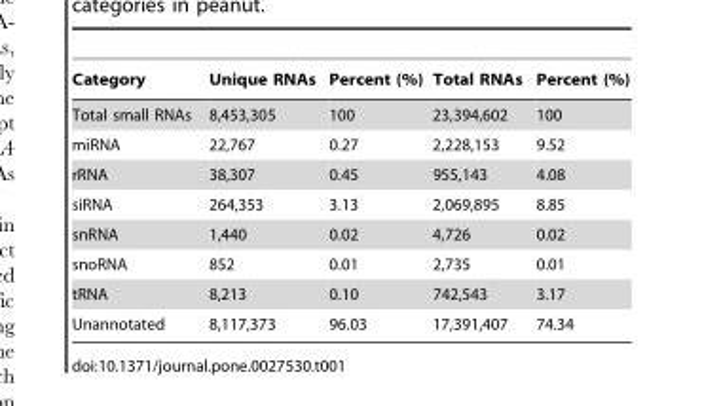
<table><thead><tr><td>Category</td><td>Unique RNAs</td><td>Percent (%)</td><td>Total RNAs</td><td>Percent (%)</td></tr></thead><tbody><tr><td>Total small RNAs</td><td>8,453,305</td><td>100</td><td>23,394,602</td><td>100</td></tr><tr><td>miRNA</td><td>22,767</td><td>0.27</td><td>2,228,153</td><td>9.52</td></tr><tr><td>rRNA</td><td>38,307</td><td>0.45</td><td>955,143</td><td>4.08</td></tr><tr><td>siRNA</td><td>264,353</td><td>3.13</td><td>2,069,895</td><td>8.85</td></tr><tr><td>snRNA</td><td>1,440</td><td>0.02</td><td>4,726</td><td>0.02</td></tr><tr><td>snoRNA</td><td>852</td><td>0.01</td><td>2,735</td><td>0.01</td></tr><tr><td>tRNA</td><td>8,213</td><td>0.10</td><td>742,543</td><td>3.17</td></tr><tr><td>Unannotated</td><td>8,117,373</td><td>96.03</td><td>17,391,407</td><td>74.34</td></tr></tbody></table>